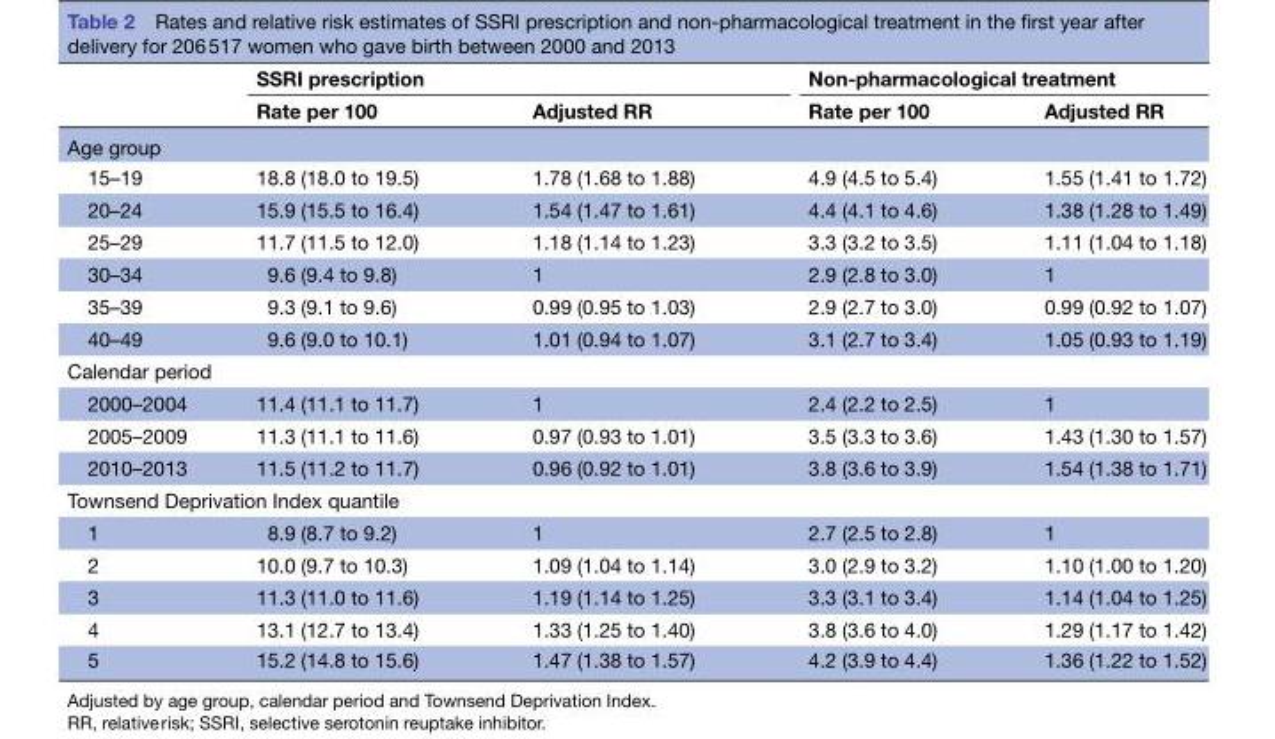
<table><thead><tr><td rowspan="2"></td><td colspan="2">SSRI prescription</td><td colspan="2">Non-pharmacological treatment</td></tr><tr><td>Rate per 100</td><td>Adjusted RR</td><td>Rate per 100</td><td>Adjusted RR</td></tr></thead><tbody><tr><td colspan="5">Age group</td></tr><tr><td>15–19</td><td>18.8 (18.0 to 19.5)</td><td>1.78 (1.68 to 1.88)</td><td>4.9 (4.5 to 5.4)</td><td>1.55 (1.41 to 1.72)</td></tr><tr><td>20–24</td><td>15.9 (15.5 to 16.4)</td><td>1.54 (1.47 to 1.61)</td><td>4.4 (4.1 to 4.6)</td><td>1.38 (1.28 to 1.49)</td></tr><tr><td>25–29</td><td>11.7 (11.5 to 12.0)</td><td>1.18 (1.14 to 1.23)</td><td>3.3 (3.2 to 3.5)</td><td>1.11 (1.04 to 1.18)</td></tr><tr><td>30–34</td><td>9.6 (9.4 to 9.8)</td><td>1</td><td>2.9 (2.8 to 3.0)</td><td>1</td></tr><tr><td>35–39</td><td>9.3 (9.1 to 9.6)</td><td>0.99 (0.95 to 1.03)</td><td>2.9 (2.7 to 3.0)</td><td>0.99 (0.92 to 1.07)</td></tr><tr><td>40–49</td><td>9.6 (9.0 to 10.1)</td><td>1.01 (0.94 to 1.07)</td><td>3.1 (2.7 to 3.4)</td><td>1.05 (0.93 to 1.19)</td></tr><tr><td colspan="5">Calendar period</td></tr><tr><td>2000–2004</td><td>11.4 (11.1 to 11.7)</td><td>1</td><td>2.4 (2.2 to 2.5)</td><td>1</td></tr><tr><td>2005–2009</td><td>11.3 (11.1 to 11.6)</td><td>0.97 (0.93 to 1.01)</td><td>3.5 (3.3 to 3.6)</td><td>1.43 (1.30 to 1.57)</td></tr><tr><td>2010–2013</td><td>11.5 (11.2 to 11.7)</td><td>0.96 (0.92 to 1.01)</td><td>3.8 (3.6 to 3.9)</td><td>1.54 (1.38 to 1.71)</td></tr><tr><td colspan="5">Townsend Deprivation Index quantile</td></tr><tr><td>1</td><td>8.9 (8.7 to 9.2)</td><td>1</td><td>2.7 (2.5 to 2.8)</td><td>1</td></tr><tr><td>2</td><td>10.0 (9.7 to 10.3)</td><td>1.09 (1.04 to 1.14)</td><td>3.0 (2.9 to 3.2)</td><td>1.10 (1.00 to 1.20)</td></tr><tr><td>3</td><td>11.3 (11.0 to 11.6)</td><td>1.19 (1.14 to 1.25)</td><td>3.3 (3.1 to 3.4)</td><td>1.14 (1.04 to 1.25)</td></tr><tr><td>4</td><td>13.1 (12.7 to 13.4)</td><td>1.33 (1.25 to 1.40)</td><td>3.8 (3.6 to 4.0)</td><td>1.29 (1.17 to 1.42)</td></tr><tr><td>5</td><td>15.2 (14.8 to 15.6)</td><td>1.47 (1.38 to 1.57)</td><td>4.2 (3.9 to 4.4)</td><td>1.36 (1.22 to 1.52)</td></tr></tbody></table>